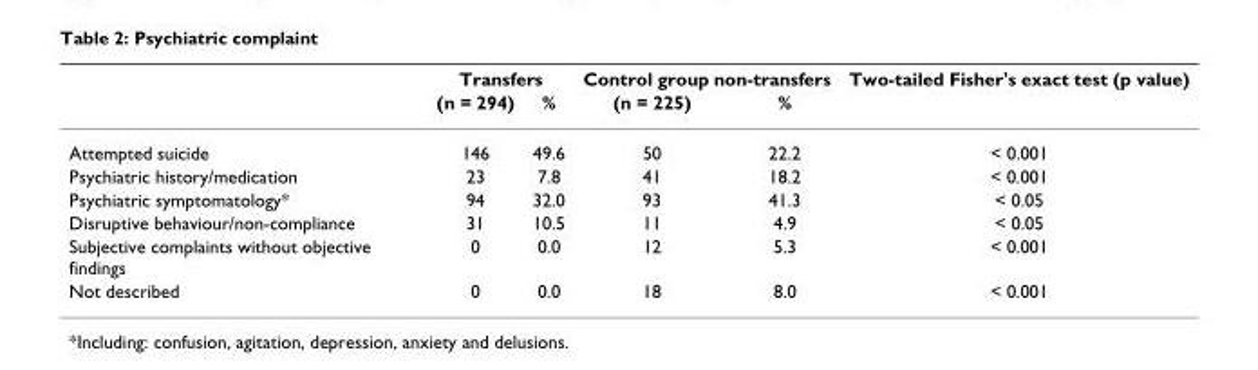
<table><thead><tr><td rowspan="2"></td><td colspan="2">Transfers</td><td colspan="2">Control group non-transfers</td><td rowspan="2">Two-tailed Fisher&#x27;s exact test (p value)</td></tr><tr><td>(n = 294)</td><td>%</td><td>(n = 225)</td><td>%</td></tr></thead><tbody><tr><td>Attempted suicide</td><td>146</td><td>49.6</td><td>50</td><td>22.2</td><td>&lt; 0.001</td></tr><tr><td>Psychiatric history/medication</td><td>23</td><td>7.8</td><td>41</td><td>18.2</td><td>&lt; 0.001</td></tr><tr><td>Psychiatric symptomatology*</td><td>94</td><td>32.0</td><td>93</td><td>41.3</td><td>&lt; 0.05</td></tr><tr><td>Disruptive behaviour/non-compliance</td><td>31</td><td>10.5</td><td>11</td><td>4.9</td><td>&lt; 0.05</td></tr><tr><td>Subjective complaints without objective findings</td><td>0</td><td>0.0</td><td>12</td><td>5.3</td><td>&lt; 0.001</td></tr><tr><td>Not described</td><td>0</td><td>0.0</td><td>18</td><td>8.0</td><td>&lt; 0.001</td></tr></tbody></table>